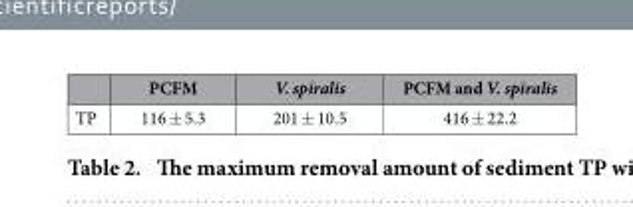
<table><thead><tr><td></td><td>PCFM</td><td>V. spiralis</td><td>PCFM and V. spiralis</td></tr></thead><tbody><tr><td>TP</td><td>116 ± 5.3</td><td>201 ± 10.5</td><td>416 ± 22.2</td></tr></tbody></table>